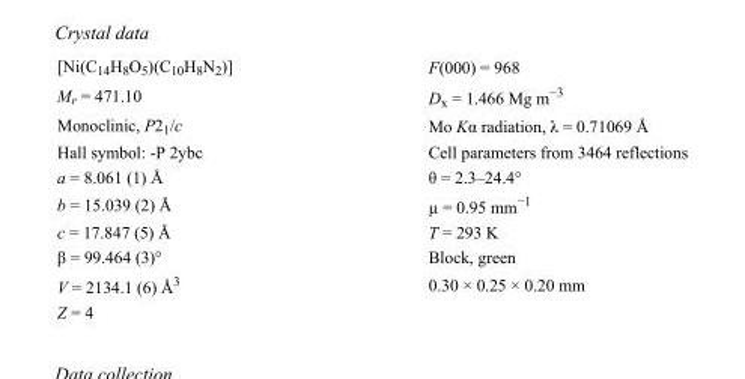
<table><tbody><tr><td>[Ni(C<sub>14</sub>H<sub>8</sub>O<sub>5</sub>)(C<sub>10</sub>H<sub>8</sub>N<sub>2</sub>)]</td><td>F(000) = 968</td></tr><tr><td>M<sub>r</sub> = 471.10</td><td>D<sub>x</sub> = 1.466 Mg m<sup>−3</sup></td></tr><tr><td>Monoclinic, P2<sub>1</sub>/c</td><td>Mo Kα radiation, λ = 0.71069 Å</td></tr><tr><td>Hall symbol: -P 2ybc</td><td>Cell parameters from 3464 reflections</td></tr><tr><td>a = 8.061 (1) Å</td><td>θ = 2.3–24.4°</td></tr><tr><td>b = 15.039 (2) Å</td><td>µ = 0.95 mm<sup>−1</sup></td></tr><tr><td>c = 17.847 (5) Å</td><td>T = 293 K</td></tr><tr><td>β = 99.464 (3)°</td><td>Block, green</td></tr><tr><td>V = 2134.1 (6) Å<sup>3</sup></td><td>0.30 × 0.25 × 0.20 mm</td></tr><tr><td>Z = 4</td><td></td></tr></tbody></table>